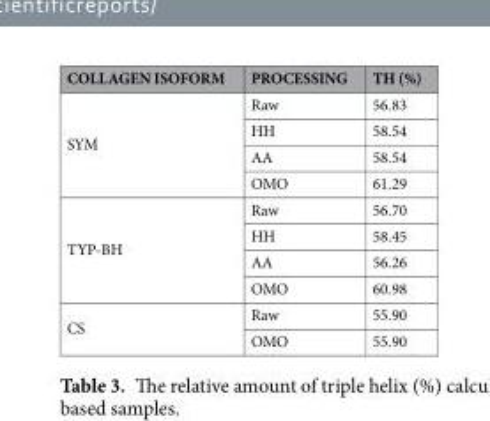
<table><thead><tr><td>COLLAGEN ISOFORM</td><td>PROCESSING</td><td>TH (%)</td></tr></thead><tbody><tr><td rowspan="4">SYM</td><td>Raw</td><td>56.83</td></tr><tr><td>HH</td><td>58.54</td></tr><tr><td>AA</td><td>58.54</td></tr><tr><td>OMO</td><td>61.29</td></tr><tr><td rowspan="4">TYP-BH</td><td>Raw</td><td>56.70</td></tr><tr><td>HH</td><td>58.45</td></tr><tr><td>AA</td><td>56.26</td></tr><tr><td>OMO</td><td>60.98</td></tr><tr><td rowspan="2">CS</td><td>Raw</td><td>55.90</td></tr><tr><td>OMO</td><td>55.90</td></tr></tbody></table>